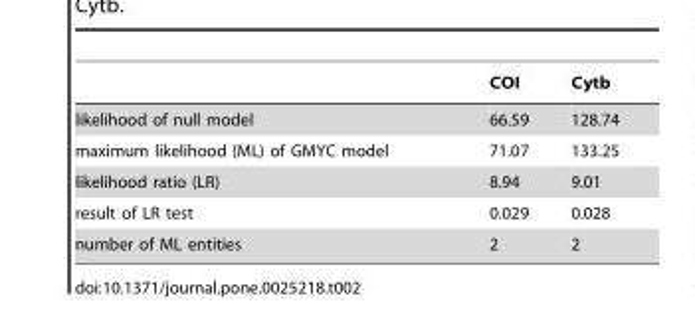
<table><thead><tr><td></td><td>COI</td><td>Cytb</td></tr></thead><tbody><tr><td>likelihood of null model</td><td>66.59</td><td>128.74</td></tr><tr><td>maximum likelihood (ML) of GMYC model</td><td>71.07</td><td>133.25</td></tr><tr><td>likelihood ratio (LR)</td><td>8.94</td><td>9.01</td></tr><tr><td>result of LR test</td><td>0.029</td><td>0.028</td></tr><tr><td>number of ML entities</td><td>2</td><td>2</td></tr></tbody></table>